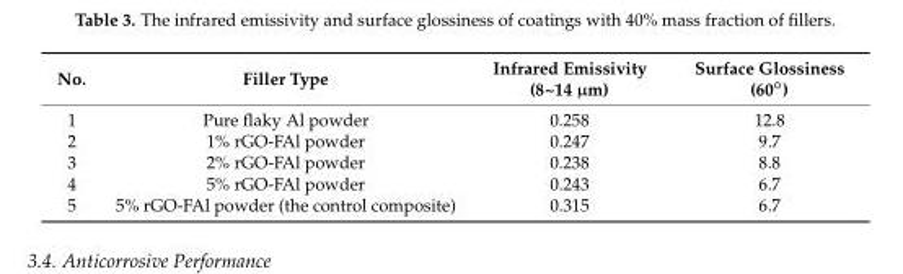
<table><thead><tr><td>No.</td><td>Filler Type</td><td>Infrared Emissivity (8~14 µm)</td><td>Surface Glossiness (60◦)</td></tr></thead><tbody><tr><td>1</td><td>Pure flaky Al powder</td><td>0.258</td><td>12.8</td></tr><tr><td>2</td><td>1% rGO-FAl powder</td><td>0.247</td><td>9.7</td></tr><tr><td>3</td><td>2% rGO-FAl powder</td><td>0.238</td><td>8.8</td></tr><tr><td>4</td><td>5% rGO-FAl powder</td><td>0.243</td><td>6.7</td></tr><tr><td>5</td><td>5% rGO-FAl powder (the control composite)</td><td>0.315</td><td>6.7</td></tr></tbody></table>